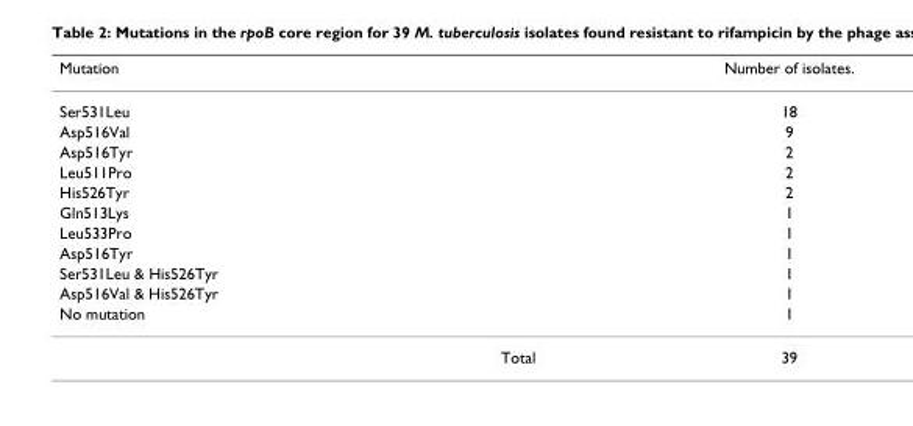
<table><thead><tr><td>Mutation</td><td>Number of isolates.</td></tr></thead><tbody><tr><td>Ser531Leu</td><td>18</td></tr><tr><td>Asp516Val</td><td>9</td></tr><tr><td>Asp516Tyr</td><td>2</td></tr><tr><td>Leu511Pro</td><td>2</td></tr><tr><td>His526Tyr</td><td>2</td></tr><tr><td>Gln513Lys</td><td>1</td></tr><tr><td>Leu533Pro</td><td>1</td></tr><tr><td>Asp516Tyr</td><td>1</td></tr><tr><td>Ser531Leu &amp; His526Tyr</td><td>1</td></tr><tr><td>Asp516Val &amp; His526Tyr</td><td>1</td></tr><tr><td>No mutation</td><td>1</td></tr><tr><td>Total</td><td>39</td></tr></tbody></table>